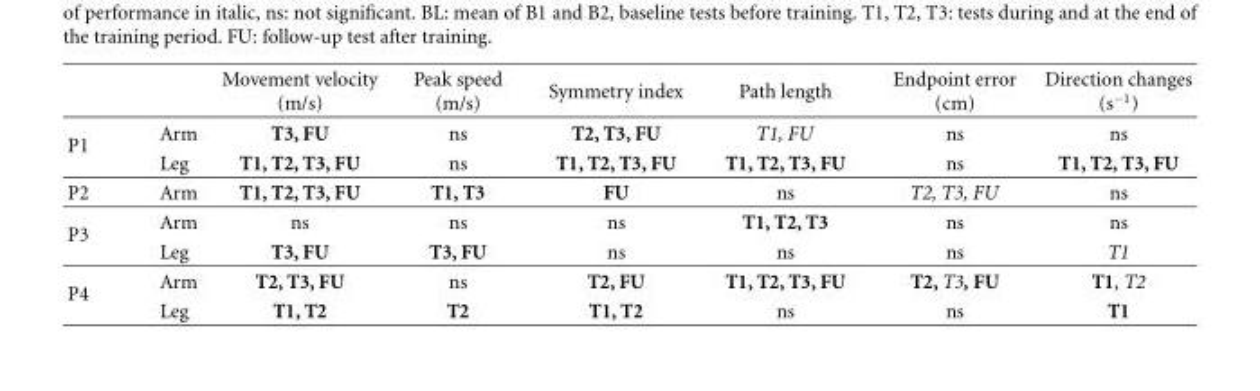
<table><thead><tr><td></td><td></td><td>Movement velocity (m/s)</td><td>Peak speed (m/s)</td><td>Symmetry index</td><td>Path length</td><td>Endpoint error (cm)</td><td>Direction changes (s<sup>−1</sup>)</td></tr></thead><tbody><tr><td rowspan="2">P1</td><td>Arm</td><td>T3, FU</td><td>ns</td><td>T2, T3, FU</td><td>T1, FU</td><td>ns</td><td>ns</td></tr><tr><td>Leg</td><td>T1, T2, T3, FU</td><td>ns</td><td>T1, T2, T3, FU</td><td>T1, T2, T3, FU</td><td>ns</td><td>T1, T2, T3, FU</td></tr><tr><td>P2</td><td>Arm</td><td>T1, T2, T3, FU</td><td>T1, T3</td><td>FU</td><td>ns</td><td>T2, T3, FU</td><td>ns</td></tr><tr><td rowspan="2">P3</td><td>Arm</td><td>ns</td><td>ns</td><td>ns</td><td>T1, T2, T3</td><td>ns</td><td>ns</td></tr><tr><td>Leg</td><td>T3, FU</td><td>T3, FU</td><td>ns</td><td>ns</td><td>ns</td><td>T1</td></tr><tr><td rowspan="2">P4</td><td>Arm</td><td>T2, T3, FU</td><td>ns</td><td>T2, FU</td><td>T1, T2, T3, FU</td><td>T2, T3, FU</td><td>T1, T2</td></tr><tr><td>Leg</td><td>T1, T2</td><td>T2</td><td>T1, T2</td><td>ns</td><td>ns</td><td>T1</td></tr></tbody></table>